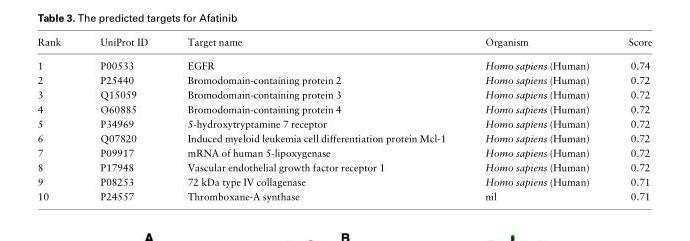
<table><thead><tr><td>Rank</td><td>UniProt ID</td><td>Target name</td><td>Organism</td><td>Score</td></tr></thead><tbody><tr><td>1</td><td>P00533</td><td>EGFR</td><td>Homo sapiens (Human)</td><td>0.74</td></tr><tr><td>2</td><td>P25440</td><td>Bromodomain-containing protein 2</td><td>Homo sapiens (Human)</td><td>0.72</td></tr><tr><td>3</td><td>Q15059</td><td>Bromodomain-containing protein 3</td><td>Homo sapiens (Human)</td><td>0.72</td></tr><tr><td>4</td><td>O60885</td><td>Bromodomain-containing protein 4</td><td>Homo sapiens (Human)</td><td>0.72</td></tr><tr><td>5</td><td>P34969</td><td>5-hydroxytryptamine 7 receptor</td><td>Homo sapiens (Human)</td><td>0.72</td></tr><tr><td>6</td><td>Q07820</td><td>Induced myeloid leukemia cell differentiation protein Mcl-1</td><td>Homo sapiens (Human)</td><td>0.72</td></tr><tr><td>7</td><td>P09917</td><td>mRNA of human 5-lipoxygenase</td><td>Homo sapiens (Human)</td><td>0.72</td></tr><tr><td>8</td><td>P17948</td><td>Vascular endothelial growth factor receptor 1</td><td>Homo sapiens (Human)</td><td>0.72</td></tr><tr><td>9</td><td>P08253</td><td>72 kDa type IV collagenase</td><td>Homo sapiens (Human)</td><td>0.71</td></tr><tr><td>10</td><td>P24557</td><td>Thromboxane-A synthase</td><td>nil</td><td>0.71</td></tr></tbody></table>